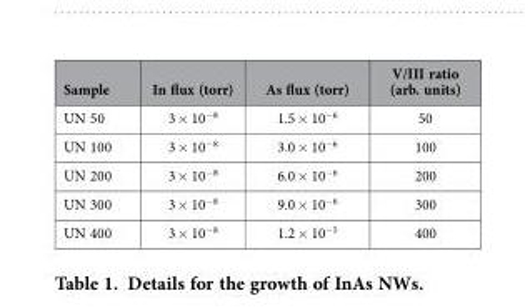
<table><thead><tr><td>Sample</td><td>In flux (torr)</td><td>As flux (torr)</td><td>V/III ratio (arb. units)</td></tr></thead><tbody><tr><td>UN 50</td><td>3 × 10<sup>−8</sup></td><td>1.5 × 10<sup>−6</sup></td><td>50</td></tr><tr><td>UN 100</td><td>3 × 10<sup>−8</sup></td><td>3.0 × 10<sup>−6</sup></td><td>100</td></tr><tr><td>UN 200</td><td>3 × 10<sup>−8</sup></td><td>6.0 × 10<sup>−6</sup></td><td>200</td></tr><tr><td>UN 300</td><td>3 × 10<sup>−8</sup></td><td>9.0 × 10<sup>−6</sup></td><td>300</td></tr><tr><td>UN 400</td><td>3 × 10<sup>−8</sup></td><td>1.2 × 10<sup>−5</sup></td><td>400</td></tr></tbody></table>